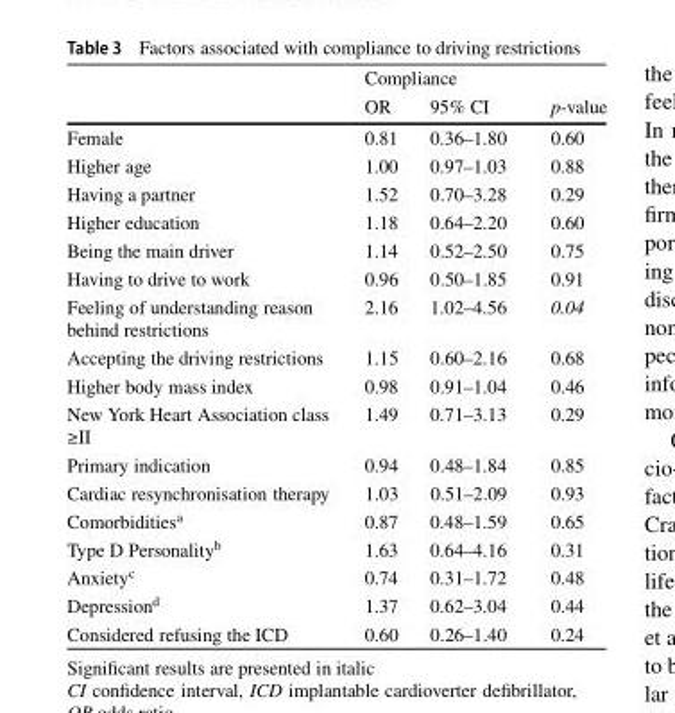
<table><thead><tr><td rowspan="2"></td><td colspan="3">Compliance</td></tr><tr><td>OR</td><td>95% CI</td><td>p-value</td></tr></thead><tbody><tr><td>Female</td><td>0.81</td><td>0.36–1.80</td><td>0.60</td></tr><tr><td>Higher age</td><td>1.00</td><td>0.97–1.03</td><td>0.88</td></tr><tr><td>Having a partner</td><td>1.52</td><td>0.70–3.28</td><td>0.29</td></tr><tr><td>Higher education</td><td>1.18</td><td>0.64–2.20</td><td>0.60</td></tr><tr><td>Being the main driver</td><td>1.14</td><td>0.52–2.50</td><td>0.75</td></tr><tr><td>Having to drive to work</td><td>0.96</td><td>0.50–1.85</td><td>0.91</td></tr><tr><td>Feeling of understanding reason behind restrictions</td><td>2.16</td><td>1.02–4.56</td><td>0.04</td></tr><tr><td>Accepting the driving restrictions</td><td>1.15</td><td>0.60–2.16</td><td>0.68</td></tr><tr><td>Higher body mass index</td><td>0.98</td><td>0.91–1.04</td><td>0.46</td></tr><tr><td>New York Heart Association class ≥II</td><td>1.49</td><td>0.71–3.13</td><td>0.29</td></tr><tr><td>Primary indication</td><td>0.94</td><td>0.48–1.84</td><td>0.85</td></tr><tr><td>Cardiac resynchronisation therapy</td><td>1.03</td><td>0.51–2.09</td><td>0.93</td></tr><tr><td>Comorbidities<sup>a</sup></td><td>0.87</td><td>0.48–1.59</td><td>0.65</td></tr><tr><td>Type D Personality<sup>b</sup></td><td>1.63</td><td>0.64–4.16</td><td>0.31</td></tr><tr><td>Anxiety<sup>c</sup></td><td>0.74</td><td>0.31–1.72</td><td>0.48</td></tr><tr><td>Depression<sup>d</sup></td><td>1.37</td><td>0.62–3.04</td><td>0.44</td></tr><tr><td>Considered refusing the ICD</td><td>0.60</td><td>0.26–1.40</td><td>0.24</td></tr></tbody></table>